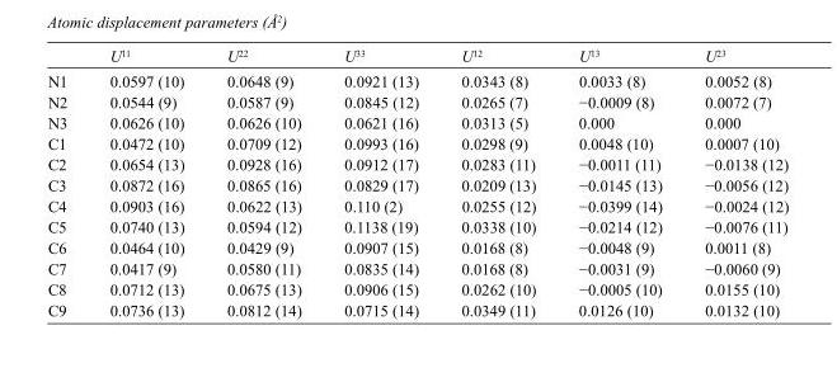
<table><thead><tr><td></td><td>U<sup>11</sup></td><td>U<sup>22</sup></td><td>U<sup>33</sup></td><td>U<sup>12</sup></td><td>U<sup>13</sup></td><td>U<sup>23</sup></td></tr></thead><tbody><tr><td>N1</td><td>0.0597 (10)</td><td>0.0648 (9)</td><td>0.0921 (13)</td><td>0.0343 (8)</td><td>0.0033 (8)</td><td>0.0052 (8)</td></tr><tr><td>N2</td><td>0.0544 (9)</td><td>0.0587 (9)</td><td>0.0845 (12)</td><td>0.0265 (7)</td><td>−0.0009 (8)</td><td>0.0072 (7)</td></tr><tr><td>N3</td><td>0.0626 (10)</td><td>0.0626 (10)</td><td>0.0621 (16)</td><td>0.0313 (5)</td><td>0.000</td><td>0.000</td></tr><tr><td>C1</td><td>0.0472 (10)</td><td>0.0709 (12)</td><td>0.0993 (16)</td><td>0.0298 (9)</td><td>0.0048 (10)</td><td>0.0007 (10)</td></tr><tr><td>C2</td><td>0.0654 (13)</td><td>0.0928 (16)</td><td>0.0912 (17)</td><td>0.0283 (11)</td><td>−0.0011 (11)</td><td>−0.0138 (12)</td></tr><tr><td>C3</td><td>0.0872 (16)</td><td>0.0865 (16)</td><td>0.0829 (17)</td><td>0.0209 (13)</td><td>−0.0145 (13)</td><td>−0.0056 (12)</td></tr><tr><td>C4</td><td>0.0903 (16)</td><td>0.0622 (13)</td><td>0.110 (2)</td><td>0.0255 (12)</td><td>−0.0399 (14)</td><td>−0.0024 (12)</td></tr><tr><td>C5</td><td>0.0740 (13)</td><td>0.0594 (12)</td><td>0.1138 (19)</td><td>0.0338 (10)</td><td>−0.0214 (12)</td><td>−0.0076 (11)</td></tr><tr><td>C6</td><td>0.0464 (10)</td><td>0.0429 (9)</td><td>0.0907 (15)</td><td>0.0168 (8)</td><td>−0.0048 (9)</td><td>0.0011 (8)</td></tr><tr><td>C7</td><td>0.0417 (9)</td><td>0.0580 (11)</td><td>0.0835 (14)</td><td>0.0168 (8)</td><td>−0.0031 (9)</td><td>−0.0060 (9)</td></tr><tr><td>C8</td><td>0.0712 (13)</td><td>0.0675 (13)</td><td>0.0906 (15)</td><td>0.0262 (10)</td><td>−0.0005 (10)</td><td>0.0155 (10)</td></tr><tr><td>C9</td><td>0.0736 (13)</td><td>0.0812 (14)</td><td>0.0715 (14)</td><td>0.0349 (11)</td><td>0.0126 (10)</td><td>0.0132 (10)</td></tr></tbody></table>